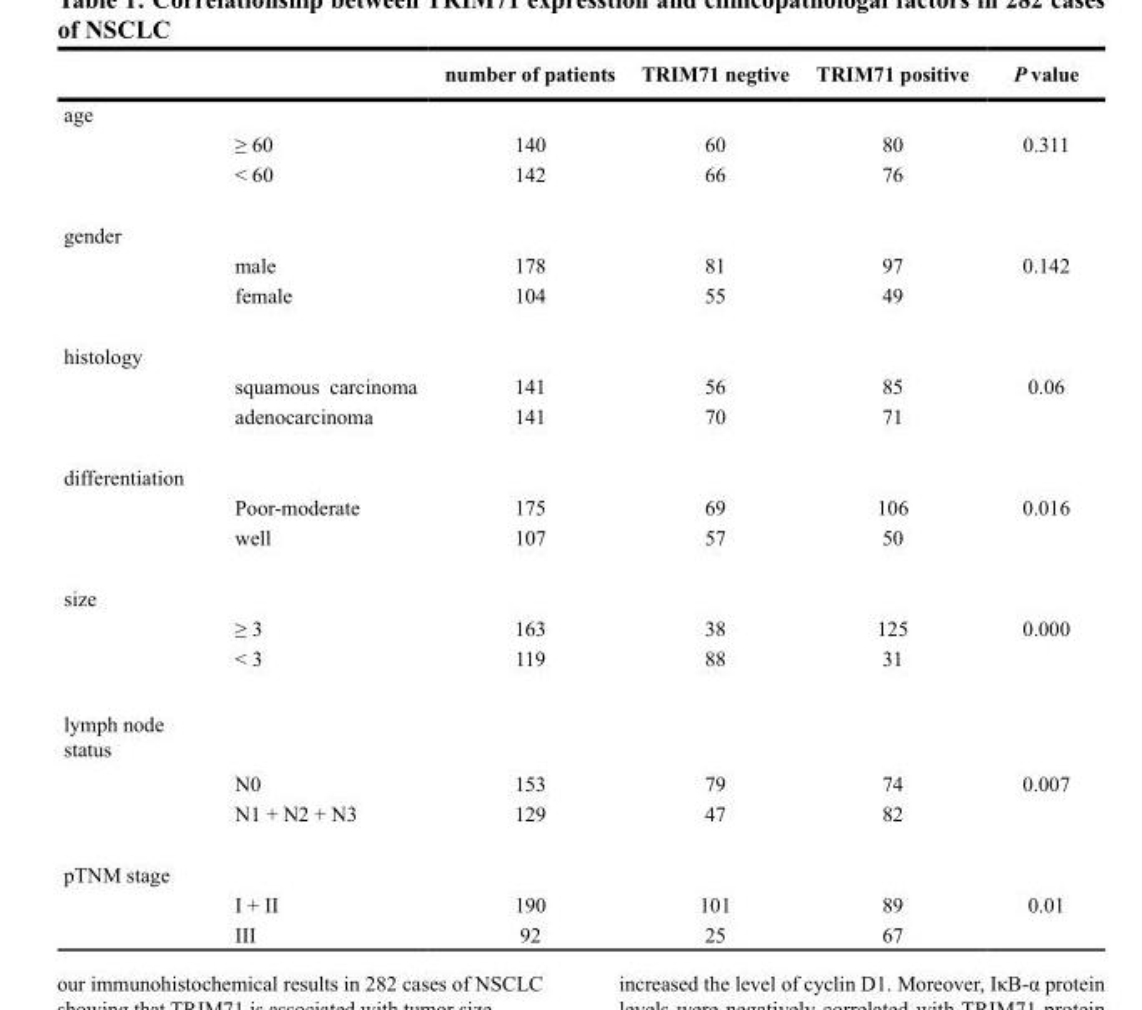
<table><thead><tr><td></td><td></td><td>number of patients</td><td>TRIM71 negtive</td><td>TRIM71 positive</td><td>P value</td></tr></thead><tbody><tr><td colspan="6">age</td></tr><tr><td></td><td>≥ 60</td><td>140</td><td>60</td><td>80</td><td>0.311</td></tr><tr><td></td><td>&lt; 60</td><td>142</td><td>66</td><td>76</td><td></td></tr><tr><td colspan="6">gender</td></tr><tr><td></td><td>male</td><td>178</td><td>81</td><td>97</td><td>0.142</td></tr><tr><td></td><td>female</td><td>104</td><td>55</td><td>49</td><td></td></tr><tr><td colspan="6">histology</td></tr><tr><td></td><td>squamous carcinoma</td><td>141</td><td>56</td><td>85</td><td>0.06</td></tr><tr><td></td><td>adenocarcinoma</td><td>141</td><td>70</td><td>71</td><td></td></tr><tr><td colspan="6">differentiation</td></tr><tr><td></td><td>Poor-moderate</td><td>175</td><td>69</td><td>106</td><td>0.016</td></tr><tr><td></td><td>well</td><td>107</td><td>57</td><td>50</td><td></td></tr><tr><td colspan="6">size</td></tr><tr><td></td><td>≥ 3</td><td>163</td><td>38</td><td>125</td><td>0.000</td></tr><tr><td></td><td>&lt; 3</td><td>119</td><td>88</td><td>31</td><td></td></tr><tr><td colspan="6">lymph node status</td></tr><tr><td></td><td>N0</td><td>153</td><td>79</td><td>74</td><td>0.007</td></tr><tr><td></td><td>N1 + N2 + N3</td><td>129</td><td>47</td><td>82</td><td></td></tr><tr><td colspan="6">pTNM stage</td></tr><tr><td></td><td>I + II</td><td>190</td><td>101</td><td>89</td><td>0.01</td></tr><tr><td></td><td>III</td><td>92</td><td>25</td><td>67</td><td></td></tr></tbody></table>